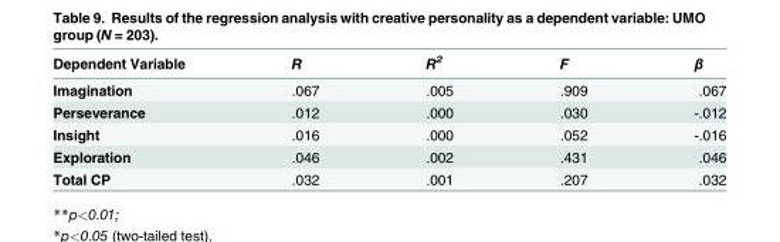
<table><thead><tr><td>Dependent Variable</td><td>R</td><td>R<sup>2</sup></td><td>F</td><td>β</td></tr></thead><tbody><tr><td>Imagination</td><td>.067</td><td>.005</td><td>.909</td><td>.067</td></tr><tr><td>Perseverance</td><td>.012</td><td>.000</td><td>.030</td><td>-.012</td></tr><tr><td>Insight</td><td>.016</td><td>.000</td><td>.052</td><td>-.016</td></tr><tr><td>Exploration</td><td>.046</td><td>.002</td><td>.431</td><td>.046</td></tr><tr><td>Total CP</td><td>.032</td><td>.001</td><td>.207</td><td>.032</td></tr></tbody></table>